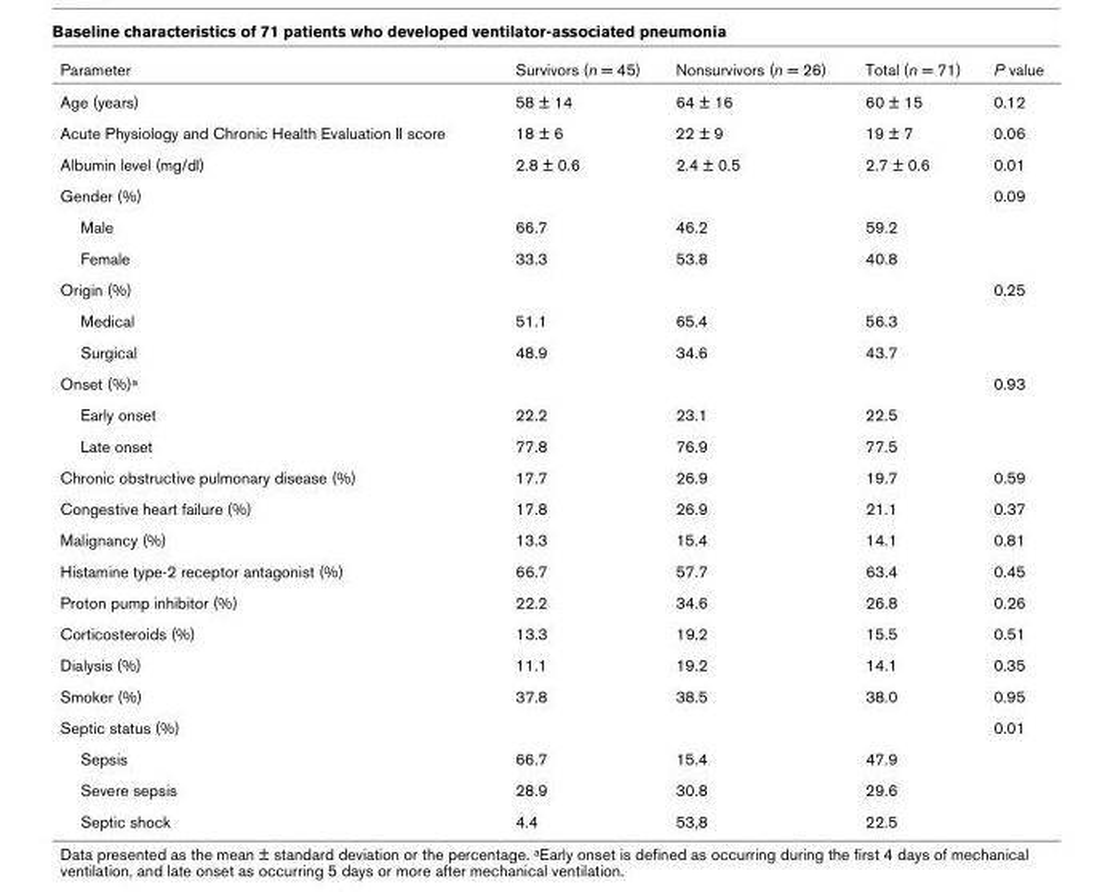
<table><thead><tr><td>Parameter</td><td>Survivors (n = 45)</td><td>Nonsurvivors (n = 26)</td><td>Total (n = 71)</td><td>P value</td></tr></thead><tbody><tr><td>Age (years)</td><td>58 ± 14</td><td>64 ± 16</td><td>60 ± 15</td><td>0.12</td></tr><tr><td>Acute Physiology and Chronic Health Evaluation II score</td><td>18 ± 6</td><td>22 ± 9</td><td>19 ± 7</td><td>0.06</td></tr><tr><td>Albumin level (mg/dl)</td><td>2.8 ± 0.6</td><td>2.4 ± 0.5</td><td>2.7 ± 0.6</td><td>0.01</td></tr><tr><td>Gender (%)</td><td></td><td></td><td></td><td>0.09</td></tr><tr><td>Male</td><td>66.7</td><td>46.2</td><td>59.2</td><td></td></tr><tr><td>Female</td><td>33.3</td><td>53.8</td><td>40.8</td><td></td></tr><tr><td>Origin (%)</td><td></td><td></td><td></td><td>0.25</td></tr><tr><td>Medical</td><td>51.1</td><td>65.4</td><td>56.3</td><td></td></tr><tr><td>Surgical</td><td>48.9</td><td>34.6</td><td>43.7</td><td></td></tr><tr><td>Onset (%)<sup>a</sup></td><td></td><td></td><td></td><td>0.93</td></tr><tr><td>Early onset</td><td>22.2</td><td>23.1</td><td>22.5</td><td></td></tr><tr><td>Late onset</td><td>77.8</td><td>76.9</td><td>77.5</td><td></td></tr><tr><td>Chronic obstructive pulmonary disease (%)</td><td>17.7</td><td>26.9</td><td>19.7</td><td>0.59</td></tr><tr><td>Congestive heart failure (%)</td><td>17.8</td><td>26.9</td><td>21.1</td><td>0.37</td></tr><tr><td>Malignancy (%)</td><td>13.3</td><td>15.4</td><td>14.1</td><td>0.81</td></tr><tr><td>Histamine type-2 receptor antagonist (%)</td><td>66.7</td><td>57.7</td><td>63.4</td><td>0.45</td></tr><tr><td>Proton pump inhibitor (%)</td><td>22.2</td><td>34.6</td><td>26.8</td><td>0.26</td></tr><tr><td>Corticosteroids (%)</td><td>13.3</td><td>19.2</td><td>15.5</td><td>0.51</td></tr><tr><td>Dialysis (%)</td><td>11.1</td><td>19.2</td><td>14.1</td><td>0.35</td></tr><tr><td>Smoker (%)</td><td>37.8</td><td>38.5</td><td>38.0</td><td>0.95</td></tr><tr><td>Septic status (%)</td><td></td><td></td><td></td><td>0.01</td></tr><tr><td>Sepsis</td><td>66.7</td><td>15.4</td><td>47.9</td><td></td></tr><tr><td>Severe sepsis</td><td>28.9</td><td>30.8</td><td>29.6</td><td></td></tr><tr><td>Septic shock</td><td>4.4</td><td>53,8</td><td>22.5</td><td></td></tr></tbody></table>